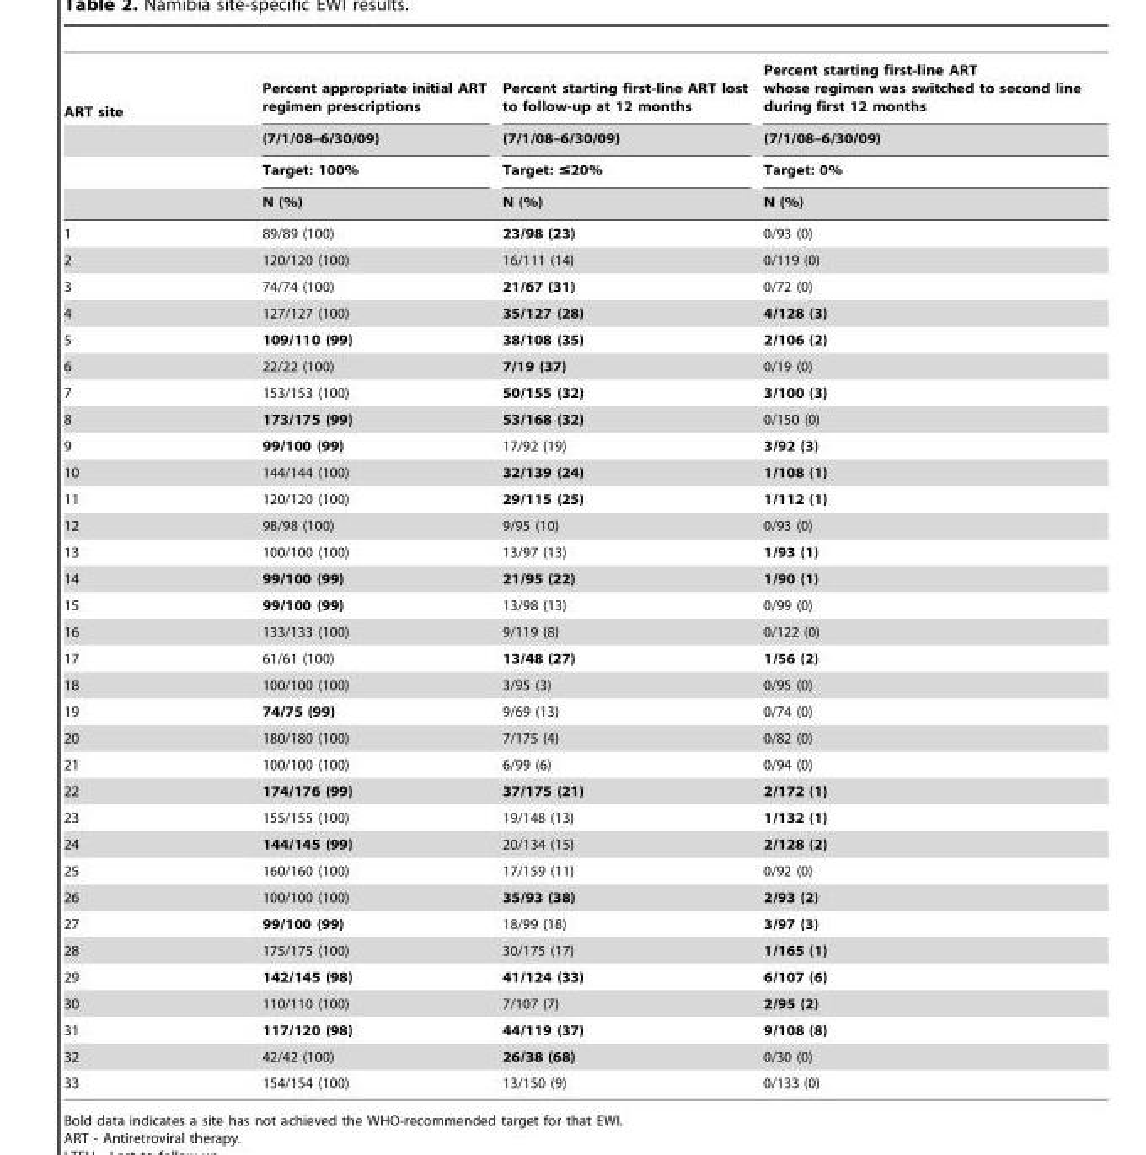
<table><thead><tr><td rowspan="4">ART site</td><td rowspan="4">Percent appropriate initial ART regimen prescriptions (7/1/08–6/30/09) Target: 100% N (%)</td><td rowspan="4">Percent starting first-line ART lost to follow-up at 12 months (7/1/08–6/30/09) Target: ≤20% N (%)</td><td rowspan="4">Percent starting first-line ART whose regimen was switched to second line during first 12 months (7/1/08–6/30/09) Target: 0% N (%)</td></tr><tr></tr><tr></tr><tr></tr></thead><tbody><tr><td>1</td><td>89/89 (100)</td><td>23/98 (23)</td><td>0/93 (0)</td></tr><tr><td>2</td><td>120/120 (100)</td><td>16/111 (14)</td><td>0/119 (0)</td></tr><tr><td>3</td><td>74/74 (100)</td><td>21/67 (31)</td><td>0/72 (0)</td></tr><tr><td>4</td><td>127/127 (100)</td><td>35/127 (28)</td><td>4/128 (3)</td></tr><tr><td>5</td><td>109/110 (99)</td><td>38/108 (35)</td><td>2/106 (2)</td></tr><tr><td>6</td><td>22/22 (100)</td><td>7/19 (37)</td><td>0/19 (0)</td></tr><tr><td>7</td><td>153/153 (100)</td><td>50/155 (32)</td><td>3/100 (3)</td></tr><tr><td>8</td><td>173/175 (99)</td><td>53/168 (32)</td><td>0/150 (0)</td></tr><tr><td>9</td><td>99/100 (99)</td><td>17/92 (19)</td><td>3/92 (3)</td></tr><tr><td>10</td><td>144/144 (100)</td><td>32/139 (24)</td><td>1/108 (1)</td></tr><tr><td>11</td><td>120/120 (100)</td><td>29/115 (25)</td><td>1/112 (1)</td></tr><tr><td>12</td><td>98/98 (100)</td><td>9/95 (10)</td><td>0/93 (0)</td></tr><tr><td>13</td><td>100/100 (100)</td><td>13/97 (13)</td><td>1/93 (1)</td></tr><tr><td>14</td><td>99/100 (99)</td><td>21/95 (22)</td><td>1/90 (1)</td></tr><tr><td>15</td><td>99/100 (99)</td><td>13/98 (13)</td><td>0/99 (0)</td></tr><tr><td>16</td><td>133/133 (100)</td><td>9/119 (8)</td><td>0/122 (0)</td></tr><tr><td>17</td><td>61/61 (100)</td><td>13/48 (27)</td><td>1/56 (2)</td></tr><tr><td>18</td><td>100/100 (100)</td><td>3/95 (3)</td><td>0/95 (0)</td></tr><tr><td>19</td><td>74/75 (99)</td><td>9/69 (13)</td><td>0/74 (0)</td></tr><tr><td>20</td><td>180/180 (100)</td><td>7/175 (4)</td><td>0/82 (0)</td></tr><tr><td>21</td><td>100/100 (100)</td><td>6/99 (6)</td><td>0/94 (0)</td></tr><tr><td>22</td><td>174/176 (99)</td><td>37/175 (21)</td><td>2/172 (1)</td></tr><tr><td>23</td><td>155/155 (100)</td><td>19/148 (13)</td><td>1/132 (1)</td></tr><tr><td>24</td><td>144/145 (99)</td><td>20/134 (15)</td><td>2/128 (2)</td></tr><tr><td>25</td><td>160/160 (100)</td><td>17/159 (11)</td><td>0/92 (0)</td></tr><tr><td>26</td><td>100/100 (100)</td><td>35/93 (38)</td><td>2/93 (2)</td></tr><tr><td>27</td><td>99/100 (99)</td><td>18/99 (18)</td><td>3/97 (3)</td></tr><tr><td>28</td><td>175/175 (100)</td><td>30/175 (17)</td><td>1/165 (1)</td></tr><tr><td>29</td><td>142/145 (98)</td><td>41/124 (33)</td><td>6/107 (6)</td></tr><tr><td>30</td><td>110/110 (100)</td><td>7/107 (7)</td><td>2/95 (2)</td></tr><tr><td>31</td><td>117/120 (98)</td><td>44/119 (37)</td><td>9/108 (8)</td></tr><tr><td>32</td><td>42/42 (100)</td><td>26/38 (68)</td><td>0/30 (0)</td></tr><tr><td>33</td><td>154/154 (100)</td><td>13/150 (9)</td><td>0/133 (0)</td></tr></tbody></table>